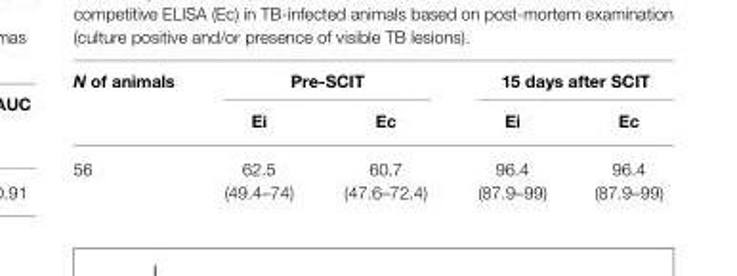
<table><thead><tr><td rowspan="2">N of animals</td><td colspan="2">Pre-SCIT</td><td colspan="2">15 days after SCIT</td></tr><tr><td>Ei</td><td>Ec</td><td>Ei</td><td>Ec</td></tr></thead><tbody><tr><td>56</td><td>62.5 (49.4–74)</td><td>60.7 (47.6–72.4)</td><td>96.4 (87.9–99)</td><td>96.4 (87.9–99)</td></tr></tbody></table>